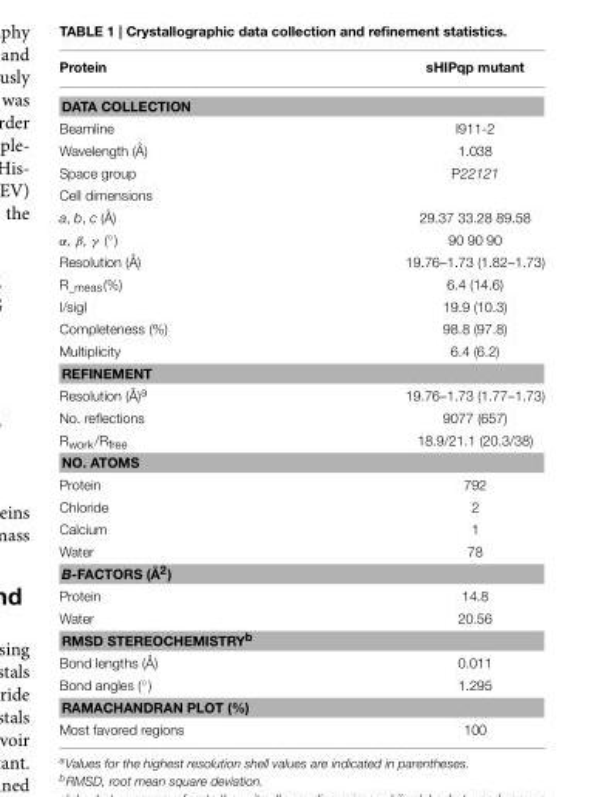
<table><thead><tr><td>Protein</td><td>sHIPqp mutant</td></tr></thead><tbody><tr><td colspan="2">DATA COLLECTION</td></tr><tr><td>Beamline</td><td>I911-2</td></tr><tr><td>Wavelength (Å)</td><td>1.038</td></tr><tr><td>Space group</td><td>P22121</td></tr><tr><td colspan="2">Cell dimensions</td></tr><tr><td>a, b, c (Å)</td><td>29.37 33.28 89.58</td></tr><tr><td>α, β, γ (◦)</td><td>90 90 90</td></tr><tr><td>Resolution (Å)</td><td>19.76–1.73 (1.82–1.73)</td></tr><tr><td>R_meas(%)</td><td>6.4 (14.6)</td></tr><tr><td>I/sigI</td><td>19.9 (10.3)</td></tr><tr><td>Completeness (%)</td><td>98.8 (97.8)</td></tr><tr><td>Multiplicity</td><td>6.4 (6.2)</td></tr><tr><td colspan="2">REFINEMENT</td></tr><tr><td>Resolution (Å)<sup>a</sup></td><td>19.76–1.73 (1.77–1.73)</td></tr><tr><td>No. reflections</td><td>9077 (657)</td></tr><tr><td>R<sub>work</sub>/R<sub>free</sub></td><td>18.9/21.1 (20.3/38)</td></tr><tr><td colspan="2">NO. ATOMS</td></tr><tr><td>Protein</td><td>792</td></tr><tr><td>Chloride</td><td>2</td></tr><tr><td>Calcium</td><td>1</td></tr><tr><td>Water</td><td>78</td></tr><tr><td colspan="2">B-FACTORS (Å<sup>2</sup>)</td></tr><tr><td>Protein</td><td>14.8</td></tr><tr><td>Water</td><td>20.56</td></tr><tr><td colspan="2">RMSD STEREOCHEMISTRY<sup>b</sup></td></tr><tr><td>Bond lengths (Å)</td><td>0.011</td></tr><tr><td>Bond angles (◦)</td><td>1.295</td></tr><tr><td colspan="2">RAMACHANDRAN PLOT (%)</td></tr><tr><td>Most favored regions</td><td>100</td></tr></tbody></table>